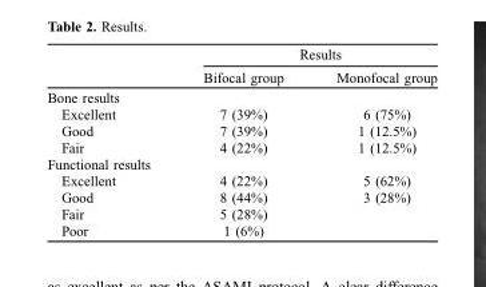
<table><thead><tr><td rowspan="2"></td><td colspan="2">Results</td></tr><tr><td>Bifocal group</td><td>Monofocal group</td></tr></thead><tbody><tr><td colspan="3">Bone results</td></tr><tr><td>Excellent</td><td>7 (39%)</td><td>6 (75%)</td></tr><tr><td>Good</td><td>7 (39%)</td><td>1 (12.5%)</td></tr><tr><td>Fair</td><td>4 (22%)</td><td>1 (12.5%)</td></tr><tr><td colspan="3">Functional results</td></tr><tr><td>Excellent</td><td>4 (22%)</td><td>5 (62%)</td></tr><tr><td>Good</td><td>8 (44%)</td><td>3 (28%)</td></tr><tr><td>Fair</td><td>5 (28%)</td><td></td></tr><tr><td>Poor</td><td>1 (6%)</td><td></td></tr></tbody></table>